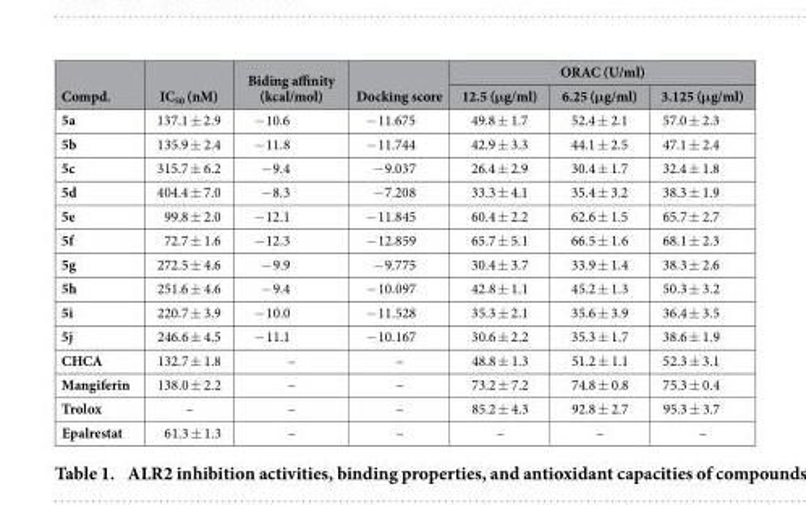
<table><thead><tr><td rowspan="2">Compd.</td><td rowspan="2">IC<sub>50</sub> (nM)</td><td rowspan="2">Biding affinity (kcal/mol)</td><td rowspan="2">Docking score</td><td colspan="3">ORAC (U/ml)</td></tr><tr><td>12.5 (μg/ml)</td><td>6.25 (μg/ml)</td><td>3.125 (μg/ml)</td></tr></thead><tbody><tr><td>5a</td><td>137.1 ± 2.9</td><td>− 10.6</td><td>− 11.675</td><td>49.8 ± 1.7</td><td>52.4 ± 2.1</td><td>57.0 ± 2.3</td></tr><tr><td>5b</td><td>135.9 ± 2.4</td><td>− 11.8</td><td>− 11.744</td><td>42.9 ± 3.3</td><td>44.1 ± 2.5</td><td>47.1 ± 2.4</td></tr><tr><td>5c</td><td>315.7 ± 6.2</td><td>− 9.4</td><td>− 9.037</td><td>26.4 ± 2.9</td><td>30.4 ± 1.7</td><td>32.4 ± 1.8</td></tr><tr><td>5d</td><td>404.4 ± 7.0</td><td>− 8.3</td><td>− 7.208</td><td>33.3 ± 4.1</td><td>35.4 ± 3.2</td><td>38.3 ± 1.9</td></tr><tr><td>5e</td><td>99.8 ± 2.0</td><td>− 12.1</td><td>− 11.845</td><td>60.4 ± 2.2</td><td>62.6 ± 1.5</td><td>65.7 ± 2.7</td></tr><tr><td>5f</td><td>72.7 ± 1.6</td><td>− 12.3</td><td>− 12.859</td><td>65.7 ± 5.1</td><td>66.5 ± 1.6</td><td>68.1 ± 2.3</td></tr><tr><td>5g</td><td>272.5 ± 4.6</td><td>− 9.9</td><td>− 9.775</td><td>30.4 ± 3.7</td><td>33.9 ± 1.4</td><td>38.3 ± 2.6</td></tr><tr><td>5h</td><td>251.6 ± 4.6</td><td>− 9.4</td><td>− 10.097</td><td>42.8 ± 1.1</td><td>45.2 ± 1.3</td><td>50.3 ± 3.2</td></tr><tr><td>5i</td><td>220.7 ± 3.9</td><td>− 10.0</td><td>− 11.528</td><td>35.3 ± 2.1</td><td>35.6 ± 3.9</td><td>36.4 ± 3.5</td></tr><tr><td>5j</td><td>246.6 ± 4.5</td><td>− 11.1</td><td>− 10.167</td><td>30.6 ± 2.2</td><td>35.3 ± 1.7</td><td>38.6 ± 1.9</td></tr><tr><td>CHCA</td><td>132.7 ± 1.8</td><td>–</td><td>–</td><td>48.8 ± 1.3</td><td>51.2 ± 1.1</td><td>52.3 ± 3.1</td></tr><tr><td>Mangiferin</td><td>138.0 ± 2.2</td><td>–</td><td>–</td><td>73.2 ± 7.2</td><td>74.8 ± 0.8</td><td>75.3 ± 0.4</td></tr><tr><td>Trolox</td><td>–</td><td>–</td><td>–</td><td>85.2 ± 4.3</td><td>92.8 ± 2.7</td><td>95.3 ± 3.7</td></tr><tr><td>Epalrestat</td><td>61.3 ± 1.3</td><td>–</td><td>–</td><td>–</td><td>–</td><td>–</td></tr></tbody></table>